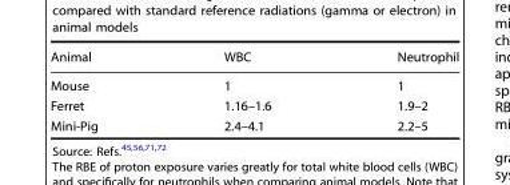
<table><thead><tr><td>Animal</td><td>WBC</td><td>Neutrophil</td></tr></thead><tbody><tr><td>Mouse</td><td>1</td><td>1</td></tr><tr><td>Ferret</td><td>1.16–1.6</td><td>1.9–2</td></tr><tr><td>Mini-Pig</td><td>2.4–4.1</td><td>2.2–5</td></tr></tbody></table>